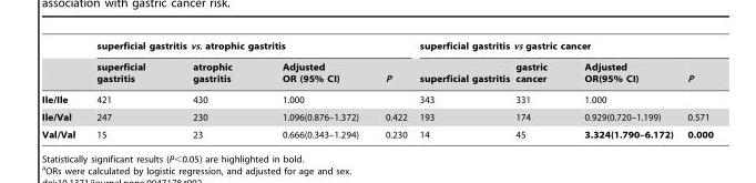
<table><thead><tr><td rowspan="2"></td><td colspan="4">superficial gastritis vs. atrophic gastritis</td><td colspan="4">superficial gastritis vs gastric cancer</td></tr><tr><td>superficial gastritis</td><td>atrophic gastritis</td><td>Adjusted OR (95% CI)</td><td>P</td><td>superficial gastritis</td><td>gastric cancer</td><td>Adjusted OR(95% CI)</td><td>P</td></tr></thead><tbody><tr><td>Ile/Ile</td><td>421</td><td>430</td><td>1.000</td><td></td><td>343</td><td>331</td><td>1.000</td><td></td></tr><tr><td>Ile/Val</td><td>247</td><td>230</td><td>1.096(0.876–1.372)</td><td>0.422</td><td>193</td><td>174</td><td>0.929(0.720–1.199)</td><td>0.571</td></tr><tr><td>Val/Val</td><td>15</td><td>23</td><td>0.666(0.343–1.294)</td><td>0.230</td><td>14</td><td>45</td><td>3.324(1.790–6.172)</td><td>0.000</td></tr></tbody></table>